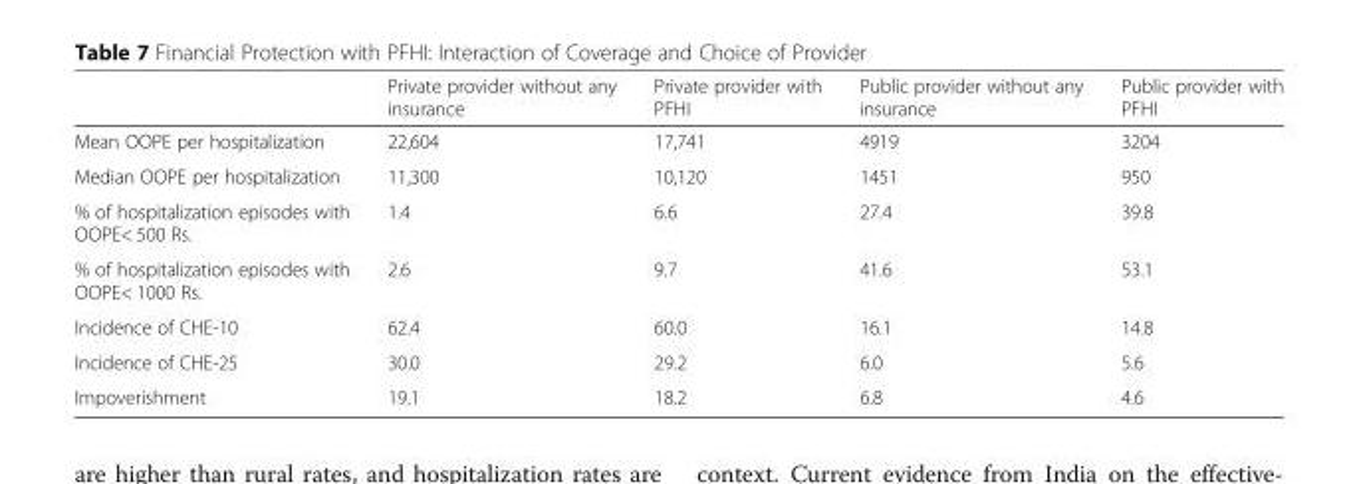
<table><thead><tr><td></td><td>Private provider without any insurance</td><td>Private provider with PFHI</td><td>Public provider without any insurance</td><td>Public provider with PFHI</td></tr></thead><tbody><tr><td>Mean OOPE per hospitalization</td><td>22,604</td><td>17,741</td><td>4919</td><td>3204</td></tr><tr><td>Median OOPE per hospitalization</td><td>11,300</td><td>10,120</td><td>1451</td><td>950</td></tr><tr><td>% of hospitalization episodes with OOPE&lt; 500 Rs.</td><td>1.4</td><td>6.6</td><td>27.4</td><td>39.8</td></tr><tr><td>% of hospitalization episodes with OOPE&lt; 1000 Rs.</td><td>2.6</td><td>9.7</td><td>41.6</td><td>53.1</td></tr><tr><td>Incidence of CHE-10</td><td>62.4</td><td>60.0</td><td>16.1</td><td>14.8</td></tr><tr><td>Incidence of CHE-25</td><td>30.0</td><td>29.2</td><td>6.0</td><td>5.6</td></tr><tr><td>Impoverishment</td><td>19.1</td><td>18.2</td><td>6.8</td><td>4.6</td></tr></tbody></table>